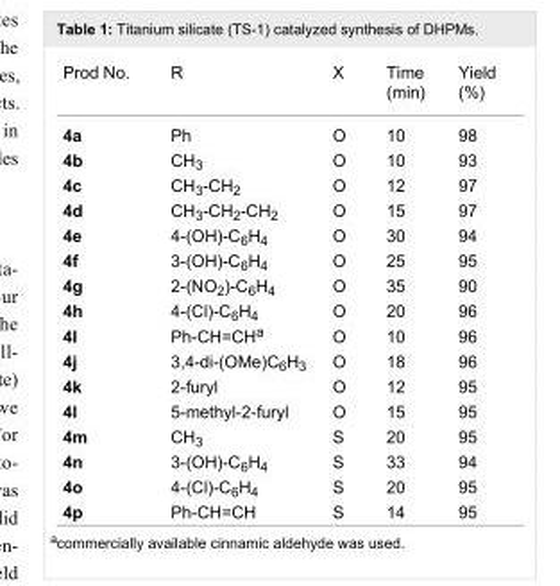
<table><tbody><tr><td>Prod No.</td><td>R</td><td>X</td><td>Time (min)</td><td>Yield (%)</td></tr><tr><td>4a</td><td>Ph</td><td>O</td><td>10</td><td>98</td></tr><tr><td>4b</td><td>CH<sub>3</sub></td><td>O</td><td>10</td><td>93</td></tr><tr><td>4c</td><td>CH<sub>3</sub>-CH<sub>2</sub></td><td>O</td><td>12</td><td>97</td></tr><tr><td>4d</td><td>CH<sub>3</sub>-CH<sub>2</sub>-CH<sub>2</sub></td><td>O</td><td>15</td><td>97</td></tr><tr><td>4e</td><td>4-(OH)-C<sub>6</sub>H<sub>4</sub></td><td>O</td><td>30</td><td>94</td></tr><tr><td>4f</td><td>3-(OH)-C<sub>6</sub>H<sub>4</sub></td><td>O</td><td>25</td><td>95</td></tr><tr><td>4g</td><td>2-(NO<sub>2</sub>)-C<sub>6</sub>H<sub>4</sub></td><td>O</td><td>35</td><td>90</td></tr><tr><td>4h</td><td>4-(Cl)-C<sub>6</sub>H<sub>4</sub></td><td>O</td><td>20</td><td>96</td></tr><tr><td>4I</td><td>Ph-CH=CH<sup>a</sup></td><td>O</td><td>10</td><td>96</td></tr><tr><td>4j</td><td>3,4-di-(OMe)C<sub>6</sub>H<sub>3</sub></td><td>O</td><td>18</td><td>96</td></tr><tr><td>4k</td><td>2-furyl</td><td>O</td><td>12</td><td>95</td></tr><tr><td>4l</td><td>5-methyl-2-furyl</td><td>O</td><td>15</td><td>95</td></tr><tr><td>4m</td><td>CH<sub>3</sub></td><td>S</td><td>20</td><td>95</td></tr><tr><td>4n</td><td>3-(OH)-C<sub>6</sub>H<sub>4</sub></td><td>S</td><td>33</td><td>94</td></tr><tr><td>4o</td><td>4-(Cl)-C<sub>6</sub>H<sub>4</sub></td><td>S</td><td>20</td><td>95</td></tr><tr><td>4p</td><td>Ph-CH=CH</td><td>S</td><td>14</td><td>95</td></tr></tbody></table>